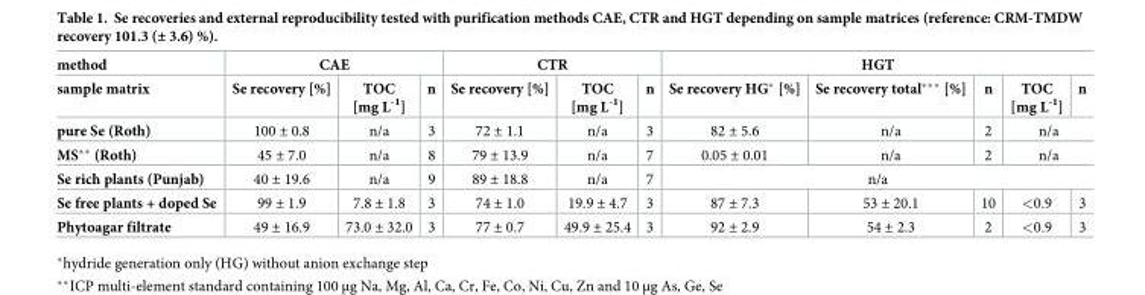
<table><thead><tr><td rowspan="2">method sample matrix</td><td colspan="3">CAE</td><td colspan="3">CTR</td><td colspan="5">HGT</td></tr><tr><td>Se recovery [%]</td><td>TOC [mg L<sup>-1</sup>]</td><td>n</td><td>Se recovery [%]</td><td>TOC [mg L<sup>-1</sup>]</td><td>n</td><td>Se recovery HG* [%]</td><td>Se recovery total*** [%]</td><td>n</td><td>TOC [mg L<sup>-1</sup>]</td><td>n</td></tr></thead><tbody><tr><td>pure Se (Roth)</td><td>100 ± 0.8</td><td>n/a</td><td>3</td><td>72 ± 1.1</td><td>n/a</td><td>3</td><td>82 ± 5.6</td><td>n/a</td><td>2</td><td colspan="2">n/a</td></tr><tr><td>MS** (Roth)</td><td>45 ± 7.0</td><td>n/a</td><td>8</td><td>79 ± 13.9</td><td>n/a</td><td>7</td><td>0.05 ± 0.01</td><td>n/a</td><td>2</td><td colspan="2">n/a</td></tr><tr><td>Se rich plants (Punjab)</td><td>40 ± 19.6</td><td>n/a</td><td>9</td><td>89 ± 18.8</td><td>n/a</td><td>7</td><td colspan="5">n/a</td></tr><tr><td>Se free plants + doped Se</td><td>99 ± 1.9</td><td>7.8 ± 1.8</td><td>3</td><td>74 ± 1.0</td><td>19.9 ± 4.7</td><td>3</td><td>87 ± 7.3</td><td>53 ± 20.1</td><td>10</td><td>&lt;0.9</td><td>3</td></tr><tr><td>Phytoagar filtrate</td><td>49 ± 16.9</td><td>73.0 ± 32.0</td><td>3</td><td>77 ± 0.7</td><td>49.9 ± 25.4</td><td>3</td><td>92 ± 2.9</td><td>54 ± 2.3</td><td>2</td><td>&lt;0.9</td><td>3</td></tr></tbody></table>